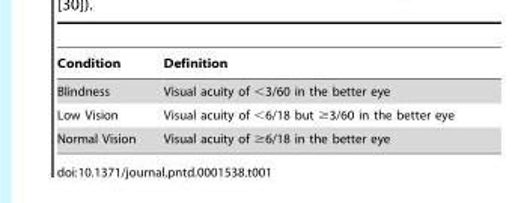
<table><thead><tr><td>Condition</td><td>Definition</td></tr></thead><tbody><tr><td>Blindness</td><td>Visual acuity of &lt;3/60 in the better eye</td></tr><tr><td>Low Vision</td><td>Visual acuity of &lt;6/18 but ≥3/60 in the better eye</td></tr><tr><td>Normal Vision</td><td>Visual acuity of ≥6/18 in the better eye</td></tr></tbody></table>